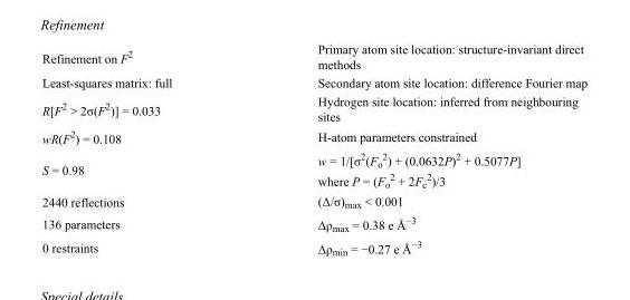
<table><tbody><tr><td>Refinement on F<sup>2</sup></td><td>Primary atom site location: structure-invariant direct methods</td></tr><tr><td>Least-squares matrix: full</td><td>Secondary atom site location: difference Fourier map</td></tr><tr><td>R[F<sup>2</sup> &gt; 2σ(F<sup>2</sup>)] = 0.033</td><td>Hydrogen site location: inferred from neighbouring sites</td></tr><tr><td>wR(F<sup>2</sup>) = 0.108</td><td>H-atom parameters constrained</td></tr><tr><td>S = 0.98</td><td>w = 1/[σ<sup>2</sup>(F<sub>o</sub> <sup>2</sup>) + (0.0632P)<sup>2</sup> + 0.5077P] where P = (F<sub>o</sub> <sup>2</sup> + 2F<sub>c</sub> <sup>2</sup>)/3</td></tr><tr><td>2440 reflections</td><td>(Δ/σ)<sub>max</sub> &lt; 0.001</td></tr><tr><td>136 parameters</td><td>Δρ<sub>max</sub> = 0.38 e Å<sup>−3</sup></td></tr><tr><td>0 restraints</td><td>Δρ<sub>min</sub> = −0.27 e Å<sup>−3</sup></td></tr></tbody></table>